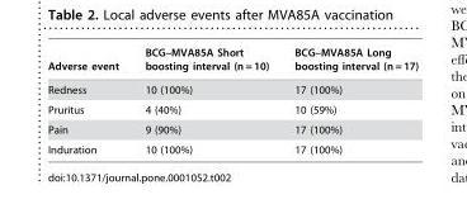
<table><thead><tr><td>Adverse event</td><td>BCG–MVA85A Short boosting interval (n = 10)</td><td>BCG–MVA85A Long boosting interval (n = 17)</td></tr></thead><tbody><tr><td>Redness</td><td>10 (100%)</td><td>17 (100%)</td></tr><tr><td>Pruritus</td><td>4 (40%)</td><td>10 (59%)</td></tr><tr><td>Pain</td><td>9 (90%)</td><td>17 (100%)</td></tr><tr><td>Induration</td><td>10 (100%)</td><td>17 (100%)</td></tr></tbody></table>